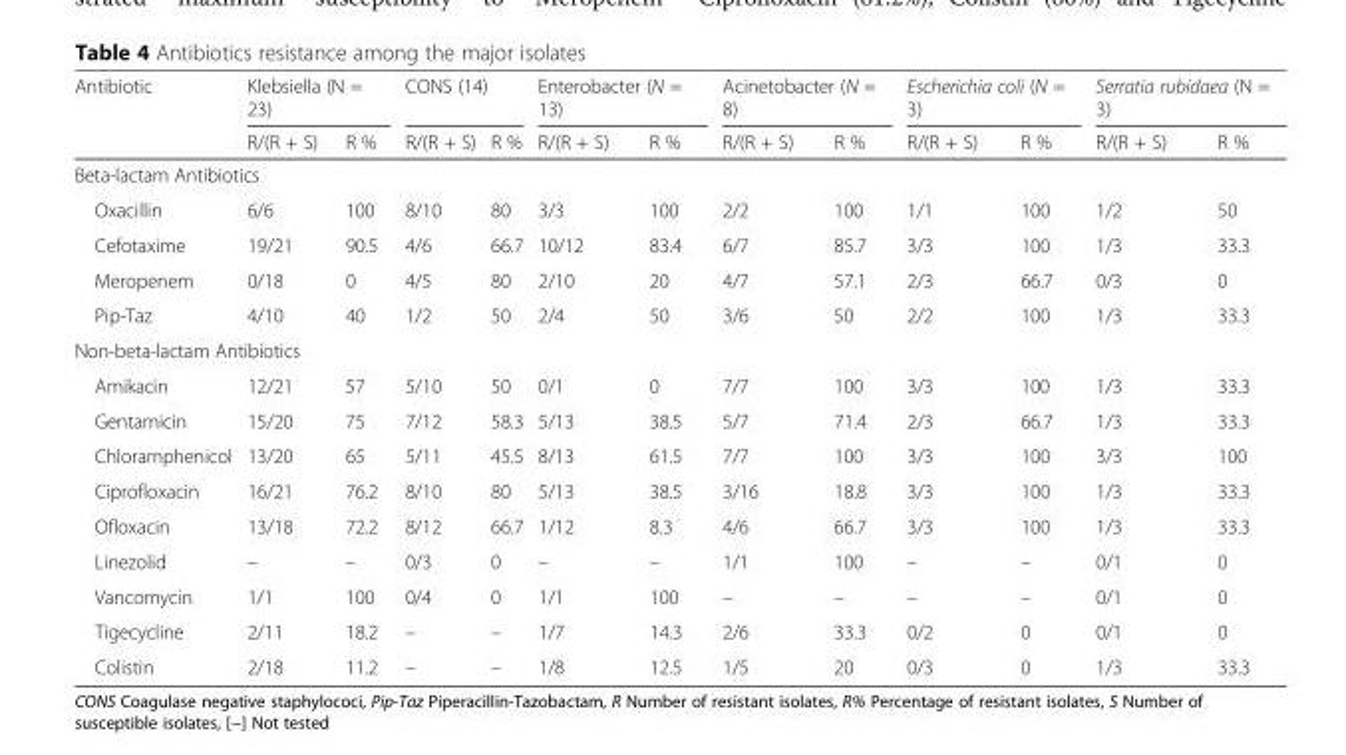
<table><thead><tr><td rowspan="2">Antibiotic</td><td colspan="2">Klebsiella (N = 23)</td><td colspan="2">CONS (14)</td><td colspan="2">Enterobacter (N = 13)</td><td colspan="2">Acinetobacter (N = 8)</td><td colspan="2">Escherichia coli (N = 3)</td><td colspan="2">Serratia rubidaea (N = 3)</td></tr><tr><td>R/(R + S)</td><td>R %</td><td>R/(R + S)</td><td>R %</td><td>R/(R + S)</td><td>R %</td><td>R/(R + S)</td><td>R %</td><td>R/(R + S)</td><td>R %</td><td>R/(R + S)</td><td>R %</td></tr></thead><tbody><tr><td colspan="13">Beta-lactam Antibiotics</td></tr><tr><td>Oxacillin</td><td>6/6</td><td>100</td><td>8/10</td><td>80</td><td>3/3</td><td>100</td><td>2/2</td><td>100</td><td>1/1</td><td>100</td><td>1/2</td><td>50</td></tr><tr><td>Cefotaxime</td><td>19/21</td><td>90.5</td><td>4/6</td><td>66.7</td><td>10/12</td><td>83.4</td><td>6/7</td><td>85.7</td><td>3/3</td><td>100</td><td>1/3</td><td>33.3</td></tr><tr><td>Meropenem</td><td>0/18</td><td>0</td><td>4/5</td><td>80</td><td>2/10</td><td>20</td><td>4/7</td><td>57.1</td><td>2/3</td><td>66.7</td><td>0/3</td><td>0</td></tr><tr><td>Pip-Taz</td><td>4/10</td><td>40</td><td>1/2</td><td>50</td><td>2/4</td><td>50</td><td>3/6</td><td>50</td><td>2/2</td><td>100</td><td>1/3</td><td>33.3</td></tr><tr><td colspan="13">Non-beta-lactam Antibiotics</td></tr><tr><td>Amikacin</td><td>12/21</td><td>57</td><td>5/10</td><td>50</td><td>0/1</td><td>0</td><td>7/7</td><td>100</td><td>3/3</td><td>100</td><td>1/3</td><td>33.3</td></tr><tr><td>Gentamicin</td><td>15/20</td><td>75</td><td>7/12</td><td>58.3</td><td>5/13</td><td>38.5</td><td>5/7</td><td>71.4</td><td>2/3</td><td>66.7</td><td>1/3</td><td>33.3</td></tr><tr><td>Chloramphenicol</td><td>13/20</td><td>65</td><td>5/11</td><td>45.5</td><td>8/13</td><td>61.5</td><td>7/7</td><td>100</td><td>3/3</td><td>100</td><td>3/3</td><td>100</td></tr><tr><td>Ciprofloxacin</td><td>16/21</td><td>76.2</td><td>8/10</td><td>80</td><td>5/13</td><td>38.5</td><td>3/16</td><td>18.8</td><td>3/3</td><td>100</td><td>1/3</td><td>33.3</td></tr><tr><td>Ofloxacin</td><td>13/18</td><td>72.2</td><td>8/12</td><td>66.7</td><td>1/12</td><td>8.3</td><td>4/6</td><td>66.7</td><td>3/3</td><td>100</td><td>1/3</td><td>33.3</td></tr><tr><td>Linezolid</td><td>–</td><td>–</td><td>0/3</td><td>0</td><td>–</td><td>–</td><td>1/1</td><td>100</td><td>–</td><td>–</td><td>0/1</td><td>0</td></tr><tr><td>Vancomycin</td><td>1/1</td><td>100</td><td>0/4</td><td>0</td><td>1/1</td><td>100</td><td>–</td><td>–</td><td>–</td><td>–</td><td>0/1</td><td>0</td></tr><tr><td>Tigecycline</td><td>2/11</td><td>18.2</td><td>–</td><td>–</td><td>1/7</td><td>14.3</td><td>2/6</td><td>33.3</td><td>0/2</td><td>0</td><td>0/1</td><td>0</td></tr><tr><td>Colistin</td><td>2/18</td><td>11.2</td><td>–</td><td>–</td><td>1/8</td><td>12.5</td><td>1/5</td><td>20</td><td>0/3</td><td>0</td><td>1/3</td><td>33.3</td></tr></tbody></table>